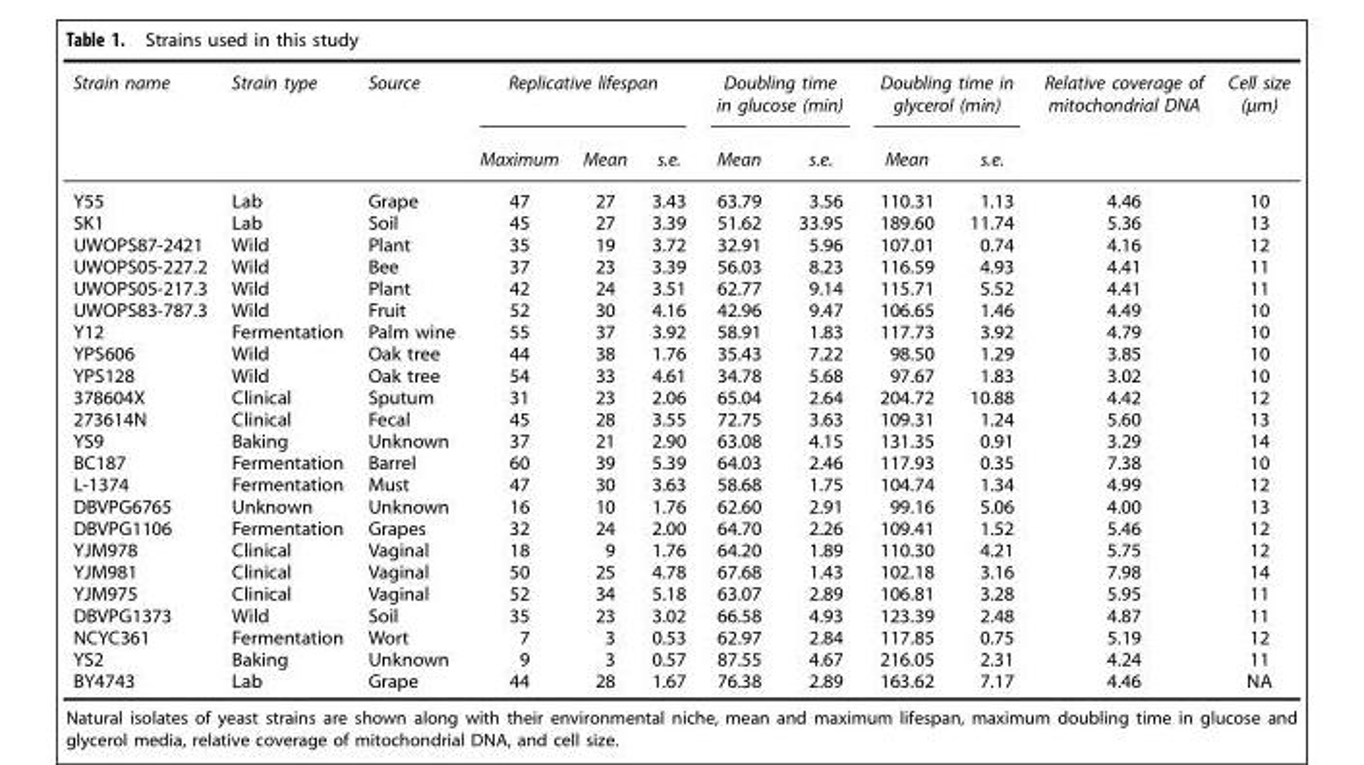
<table><thead><tr><td rowspan="2">Strain name</td><td rowspan="2">Strain type</td><td rowspan="2">Source</td><td colspan="3">Replicative lifespan</td><td colspan="2">Doubling time in glucose (min)</td><td colspan="2">Doubling time in glycerol (min)</td><td rowspan="2">Relative coverage of mitochondrial DNA</td><td rowspan="2">Cell size (μm)</td></tr><tr><td>Maximum</td><td>Mean</td><td>s.e.</td><td>Mean</td><td>s.e.</td><td>Mean</td><td>s.e.</td></tr></thead><tbody><tr><td>Y55</td><td>Lab</td><td>Grape</td><td>47</td><td>27</td><td>3.43</td><td>63.79</td><td>3.56</td><td>110.31</td><td>1.13</td><td>4.46</td><td>10</td></tr><tr><td>SK1</td><td>Lab</td><td>Soil</td><td>45</td><td>27</td><td>3.39</td><td>51.62</td><td>33.95</td><td>189.60</td><td>11.74</td><td>5.36</td><td>13</td></tr><tr><td>UWOPS87-2421</td><td>Wild</td><td>Plant</td><td>35</td><td>19</td><td>3.72</td><td>32.91</td><td>5.96</td><td>107.01</td><td>0.74</td><td>4.16</td><td>12</td></tr><tr><td>UWOPS05-227.2</td><td>Wild</td><td>Bee</td><td>37</td><td>23</td><td>3.39</td><td>56.03</td><td>8.23</td><td>116.59</td><td>4.93</td><td>4.41</td><td>11</td></tr><tr><td>UWOPS05-217.3</td><td>Wild</td><td>Plant</td><td>42</td><td>24</td><td>3.51</td><td>62.77</td><td>9.14</td><td>115.71</td><td>5.52</td><td>4.41</td><td>11</td></tr><tr><td>UWOPS83-787.3</td><td>Wild</td><td>Fruit</td><td>52</td><td>30</td><td>4.16</td><td>42.96</td><td>9.47</td><td>106.65</td><td>1.46</td><td>4.49</td><td>10</td></tr><tr><td>Y12</td><td>Fermentation</td><td>Palm wine</td><td>55</td><td>37</td><td>3.92</td><td>58.91</td><td>1.83</td><td>117.73</td><td>3.92</td><td>4.79</td><td>10</td></tr><tr><td>YPS606</td><td>Wild</td><td>Oak tree</td><td>44</td><td>38</td><td>1.76</td><td>35.43</td><td>7.22</td><td>98.50</td><td>1.29</td><td>3.85</td><td>10</td></tr><tr><td>YPS128</td><td>Wild</td><td>Oak tree</td><td>54</td><td>33</td><td>4.61</td><td>34.78</td><td>5.68</td><td>97.67</td><td>1.83</td><td>3.02</td><td>10</td></tr><tr><td>378604X</td><td>Clinical</td><td>Sputum</td><td>31</td><td>23</td><td>2.06</td><td>65.04</td><td>2.64</td><td>204.72</td><td>10.88</td><td>4.42</td><td>12</td></tr><tr><td>273614N</td><td>Clinical</td><td>Fecal</td><td>45</td><td>28</td><td>3.55</td><td>72.75</td><td>3.63</td><td>109.31</td><td>1.24</td><td>5.60</td><td>13</td></tr><tr><td>YS9</td><td>Baking</td><td>Unknown</td><td>37</td><td>21</td><td>2.90</td><td>63.08</td><td>4.15</td><td>131.35</td><td>0.91</td><td>3.29</td><td>14</td></tr><tr><td>BC187</td><td>Fermentation</td><td>Barrel</td><td>60</td><td>39</td><td>5.39</td><td>64.03</td><td>2.46</td><td>117.93</td><td>0.35</td><td>7.38</td><td>10</td></tr><tr><td>L-1374</td><td>Fermentation</td><td>Must</td><td>47</td><td>30</td><td>3.63</td><td>58.68</td><td>1.75</td><td>104.74</td><td>1.34</td><td>4.99</td><td>12</td></tr><tr><td>DBVPG6765</td><td>Unknown</td><td>Unknown</td><td>16</td><td>10</td><td>1.76</td><td>62.60</td><td>2.91</td><td>99.16</td><td>5.06</td><td>4.00</td><td>13</td></tr><tr><td>DBVPG1106</td><td>Fermentation</td><td>Grapes</td><td>32</td><td>24</td><td>2.00</td><td>64.70</td><td>2.26</td><td>109.41</td><td>1.52</td><td>5.46</td><td>12</td></tr><tr><td>YJM978</td><td>Clinical</td><td>Vaginal</td><td>18</td><td>9</td><td>1.76</td><td>64.20</td><td>1.89</td><td>110.30</td><td>4.21</td><td>5.75</td><td>12</td></tr><tr><td>YJM981</td><td>Clinical</td><td>Vaginal</td><td>50</td><td>25</td><td>4.78</td><td>67.68</td><td>1.43</td><td>102.18</td><td>3.16</td><td>7.98</td><td>14</td></tr><tr><td>YJM975</td><td>Clinical</td><td>Vaginal</td><td>52</td><td>34</td><td>5.18</td><td>63.07</td><td>2.89</td><td>106.81</td><td>3.28</td><td>5.95</td><td>11</td></tr><tr><td>DBVPG1373</td><td>Wild</td><td>Soil</td><td>35</td><td>23</td><td>3.02</td><td>66.58</td><td>4.93</td><td>123.39</td><td>2.48</td><td>4.87</td><td>11</td></tr><tr><td>NCYC361</td><td>Fermentation</td><td>Wort</td><td>7</td><td>3</td><td>0.53</td><td>62.97</td><td>2.84</td><td>117.85</td><td>0.75</td><td>5.19</td><td>12</td></tr><tr><td>YS2</td><td>Baking</td><td>Unknown</td><td>9</td><td>3</td><td>0.57</td><td>87.55</td><td>4.67</td><td>216.05</td><td>2.31</td><td>4.24</td><td>11</td></tr><tr><td>BY4743</td><td>Lab</td><td>Grape</td><td>44</td><td>28</td><td>1.67</td><td>76.38</td><td>2.89</td><td>163.62</td><td>7.17</td><td>4.46</td><td>NA</td></tr></tbody></table>